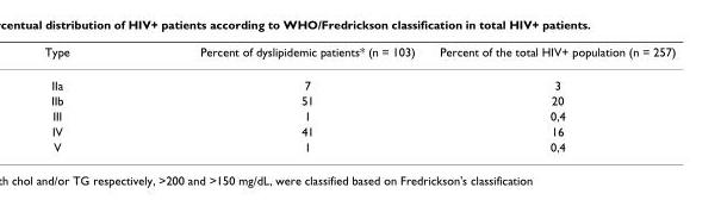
<table><thead><tr><td>Type</td><td>Percent of dyslipidemic patients* (n = 103)</td><td>Percent of the total HIV+ population (n = 257)</td></tr></thead><tbody><tr><td>IIa</td><td>7</td><td>3</td></tr><tr><td>IIb</td><td>51</td><td>20</td></tr><tr><td>III</td><td>1</td><td>0,4</td></tr><tr><td>IV</td><td>41</td><td>16</td></tr><tr><td>V</td><td>1</td><td>0,4</td></tr></tbody></table>